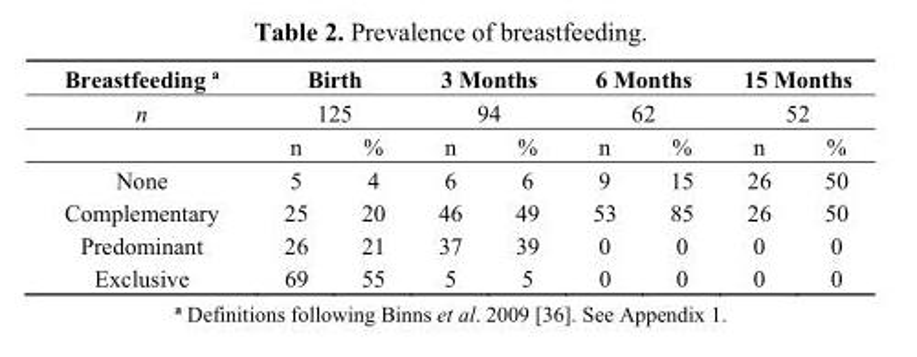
<table><thead><tr><td rowspan="3">Breastfeeding a n</td><td rowspan="2" colspan="2">Birth 125</td><td rowspan="2" colspan="2">3 Months 94</td><td rowspan="2" colspan="2">6 Months 62</td><td rowspan="2" colspan="2">15 Months 52</td></tr><tr></tr><tr><td>n</td><td>%</td><td>n</td><td>%</td><td>n</td><td>%</td><td>n</td><td>%</td></tr></thead><tbody><tr><td>None</td><td>5</td><td>4</td><td>6</td><td>6</td><td>9</td><td>15</td><td>26</td><td>50</td></tr><tr><td>Complementary</td><td>25</td><td>20</td><td>46</td><td>49</td><td>53</td><td>85</td><td>26</td><td>50</td></tr><tr><td>Predominant</td><td>26</td><td>21</td><td>37</td><td>39</td><td>0</td><td>0</td><td>0</td><td>0</td></tr><tr><td>Exclusive</td><td>69</td><td>55</td><td>5</td><td>5</td><td>0</td><td>0</td><td>0</td><td>0</td></tr></tbody></table>